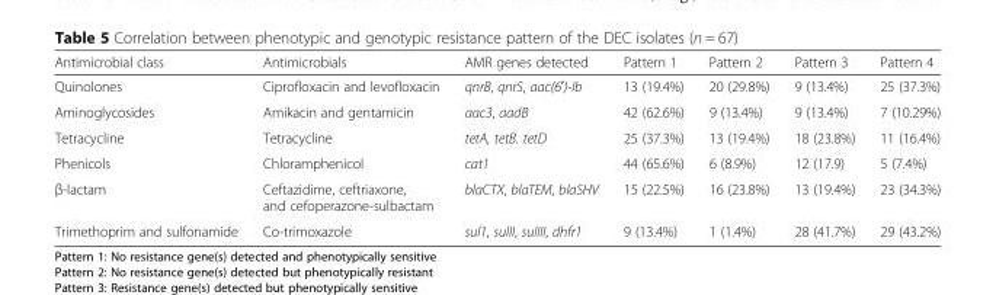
<table><thead><tr><td>Antimicrobial class</td><td>Antimicrobials</td><td>AMR genes detected</td><td>Pattern 1</td><td>Pattern 2</td><td>Pattern 3</td><td>Pattern 4</td></tr></thead><tbody><tr><td>Quinolones</td><td>Ciprofloxacin and levofloxacin</td><td>qnrB, qnrS, aac(6′)-Ib</td><td>13 (19.4%)</td><td>20 (29.8%)</td><td>9 (13.4%)</td><td>25 (37.3%)</td></tr><tr><td>Aminoglycosides</td><td>Amikacin and gentamicin</td><td>aac3, aadB</td><td>42 (62.6%)</td><td>9 (13.4%)</td><td>9 (13.4%)</td><td>7 (10.29%)</td></tr><tr><td>Tetracycline</td><td>Tetracycline</td><td>tetA, tetB. tetD</td><td>25 (37.3%)</td><td>13 (19.4%)</td><td>18 (23.8%)</td><td>11 (16.4%)</td></tr><tr><td>Phenicols</td><td>Chloramphenicol</td><td>cat1</td><td>44 (65.6%)</td><td>6 (8.9%)</td><td>12 (17.9)</td><td>5 (7.4%)</td></tr><tr><td>β-lactam</td><td>Ceftazidime, ceftriaxone, and cefoperazone-sulbactam</td><td>blaCTX, blaTEM, blaSHV</td><td>15 (22.5%)</td><td>16 (23.8%)</td><td>13 (19.4%)</td><td>23 (34.3%)</td></tr><tr><td>Trimethoprim and sulfonamide</td><td>Co-trimoxazole</td><td>sul1, sulII, sulIII, dhfr1</td><td>9 (13.4%)</td><td>1 (1.4%)</td><td>28 (41.7%)</td><td>29 (43.2%)</td></tr></tbody></table>